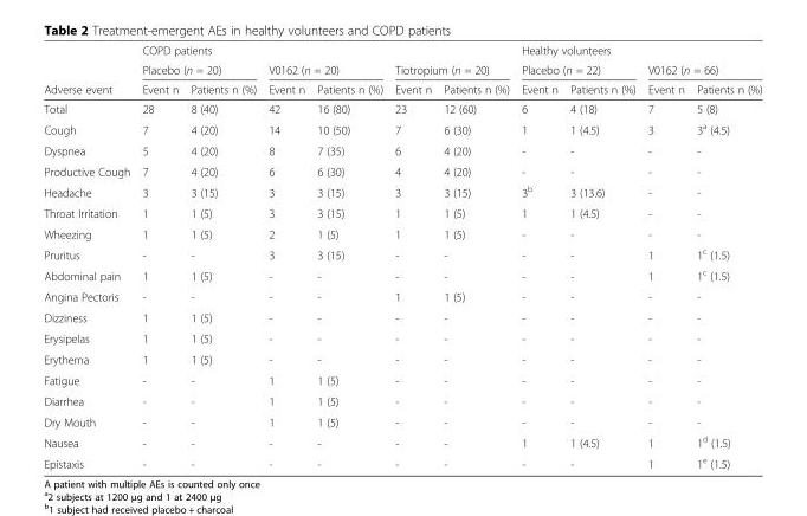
<table><thead><tr><td rowspan="3">Adverse event</td><td colspan="6">COPD patients</td><td colspan="4">Healthy volunteers</td></tr><tr><td colspan="2">Placebo (n = 20)</td><td colspan="2">V0162 (n = 20)</td><td colspan="2">Tiotropium (n = 20)</td><td colspan="2">Placebo (n = 22)</td><td colspan="2">V0162 (n = 66)</td></tr><tr><td>Event n</td><td>Patients n (%)</td><td>Event n</td><td>Patients n (%)</td><td>Event n</td><td>Patients n (%)</td><td>Event n</td><td>Patients n (%)</td><td>Event n</td><td>Patients n (%)</td></tr></thead><tbody><tr><td>Total</td><td>28</td><td>8 (40)</td><td>42</td><td>16 (80)</td><td>23</td><td>12 (60)</td><td>6</td><td>4 (18)</td><td>7</td><td>5 (8)</td></tr><tr><td>Cough</td><td>7</td><td>4 (20)</td><td>14</td><td>10 (50)</td><td>7</td><td>6 (30)</td><td>1</td><td>1 (4.5)</td><td>3</td><td>3<sup>a</sup> (4.5)</td></tr><tr><td>Dyspnea</td><td>5</td><td>4 (20)</td><td>8</td><td>7 (35)</td><td>6</td><td>4 (20)</td><td>-</td><td>-</td><td>-</td><td>-</td></tr><tr><td>Productive Cough</td><td>7</td><td>4 (20)</td><td>6</td><td>6 (30)</td><td>4</td><td>4 (20)</td><td>-</td><td>-</td><td>-</td><td>-</td></tr><tr><td>Headache</td><td>3</td><td>3 (15)</td><td>3</td><td>3 (15)</td><td>3</td><td>3 (15)</td><td>3<sup>b</sup></td><td>3 (13.6)</td><td>-</td><td>-</td></tr><tr><td>Throat Irritation</td><td>1</td><td>1 (5)</td><td>3</td><td>3 (15)</td><td>1</td><td>1 (5)</td><td>1</td><td>1 (4.5)</td><td>-</td><td>-</td></tr><tr><td>Wheezing</td><td>1</td><td>1 (5)</td><td>2</td><td>1 (5)</td><td>1</td><td>1 (5)</td><td>-</td><td>-</td><td>-</td><td>-</td></tr><tr><td>Pruritus</td><td>-</td><td>-</td><td>3</td><td>3 (15)</td><td>-</td><td>-</td><td>-</td><td>-</td><td>1</td><td>1<sup>c</sup> (1.5)</td></tr><tr><td>Abdominal pain</td><td>1</td><td>1 (5)</td><td>-</td><td>-</td><td>-</td><td>-</td><td>-</td><td>-</td><td>1</td><td>1<sup>c</sup> (1.5)</td></tr><tr><td>Angina Pectoris</td><td>-</td><td>-</td><td>-</td><td>-</td><td>1</td><td>1 (5)</td><td>-</td><td>-</td><td>-</td><td>-</td></tr><tr><td>Dizziness</td><td>1</td><td>1 (5)</td><td>-</td><td>-</td><td>-</td><td>-</td><td>-</td><td>-</td><td>-</td><td>-</td></tr><tr><td>Erysipelas</td><td>1</td><td>1 (5)</td><td>-</td><td>-</td><td>-</td><td>-</td><td>-</td><td>-</td><td>-</td><td>-</td></tr><tr><td>Erythema</td><td>1</td><td>1 (5)</td><td>-</td><td>-</td><td>-</td><td>-</td><td>-</td><td>-</td><td>-</td><td>-</td></tr><tr><td>Fatigue</td><td>-</td><td>-</td><td>1</td><td>1 (5)</td><td>-</td><td>-</td><td>-</td><td>-</td><td>-</td><td>-</td></tr><tr><td>Diarrhea</td><td>-</td><td>-</td><td>1</td><td>1 (5)</td><td>-</td><td>-</td><td>-</td><td>-</td><td>-</td><td>-</td></tr><tr><td>Dry Mouth</td><td>-</td><td>-</td><td>1</td><td>1 (5)</td><td>-</td><td>-</td><td>-</td><td>-</td><td>-</td><td>-</td></tr><tr><td>Nausea</td><td>-</td><td>-</td><td>-</td><td>-</td><td>-</td><td>-</td><td>1</td><td>1 (4.5)</td><td>1</td><td>1<sup>d</sup> (1.5)</td></tr><tr><td>Epistaxis</td><td>-</td><td>-</td><td>-</td><td>-</td><td>-</td><td>-</td><td>-</td><td>-</td><td>1</td><td>1<sup>e</sup> (1.5)</td></tr></tbody></table>